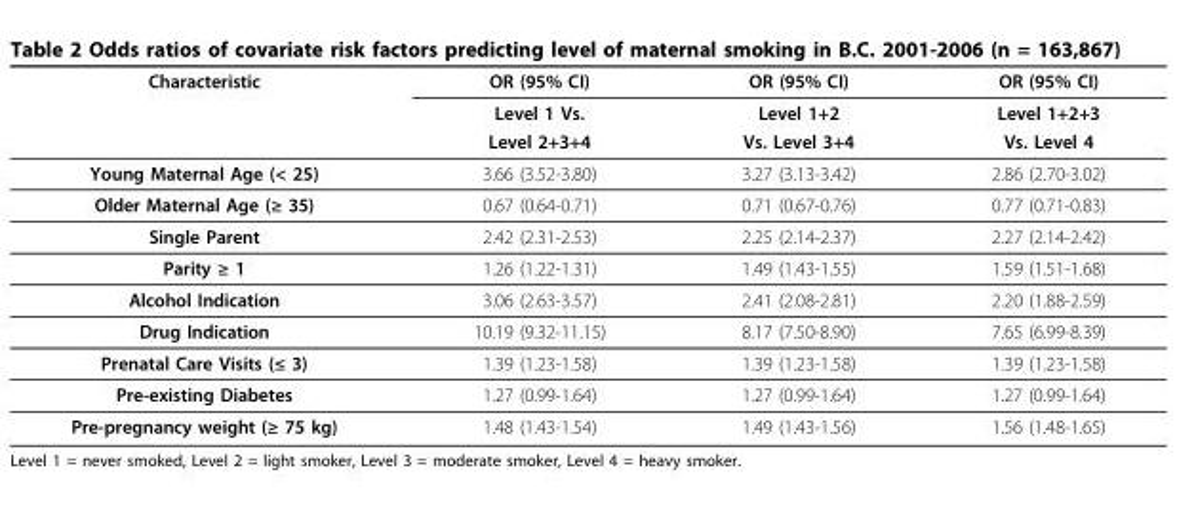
<table><thead><tr><td rowspan="3">Characteristic</td><td rowspan="3">OR (95% CI) Level 1 Vs. Level 2+3+4</td><td rowspan="3">OR (95% CI) Level 1+2 Vs. Level 3+4</td><td rowspan="3">OR (95% CI) Level 1+2+3 Vs. Level 4</td></tr><tr></tr><tr></tr></thead><tbody><tr><td>Young Maternal Age (&lt; 25)</td><td>3.66 (3.52-3.80)</td><td>3.27 (3.13-3.42)</td><td>2.86 (2.70-3.02)</td></tr><tr><td>Older Maternal Age (≥ 35)</td><td>0.67 (0.64-0.71)</td><td>0.71 (0.67-0.76)</td><td>0.77 (0.71-0.83)</td></tr><tr><td>Single Parent</td><td>2.42 (2.31-2.53)</td><td>2.25 (2.14-2.37)</td><td>2.27 (2.14-2.42)</td></tr><tr><td>Parity ≥ 1</td><td>1.26 (1.22-1.31)</td><td>1.49 (1.43-1.55)</td><td>1.59 (1.51-1.68)</td></tr><tr><td>Alcohol Indication</td><td>3.06 (2.63-3.57)</td><td>2.41 (2.08-2.81)</td><td>2.20 (1.88-2.59)</td></tr><tr><td>Drug Indication</td><td>10.19 (9.32-11.15)</td><td>8.17 (7.50-8.90)</td><td>7.65 (6.99-8.39)</td></tr><tr><td>Prenatal Care Visits (≤ 3)</td><td>1.39 (1.23-1.58)</td><td>1.39 (1.23-1.58)</td><td>1.39 (1.23-1.58)</td></tr><tr><td>Pre-existing Diabetes</td><td>1.27 (0.99-1.64)</td><td>1.27 (0.99-1.64)</td><td>1.27 (0.99-1.64)</td></tr><tr><td>Pre-pregnancy weight (≥ 75 kg)</td><td>1.48 (1.43-1.54)</td><td>1.49 (1.43-1.56)</td><td>1.56 (1.48-1.65)</td></tr></tbody></table>